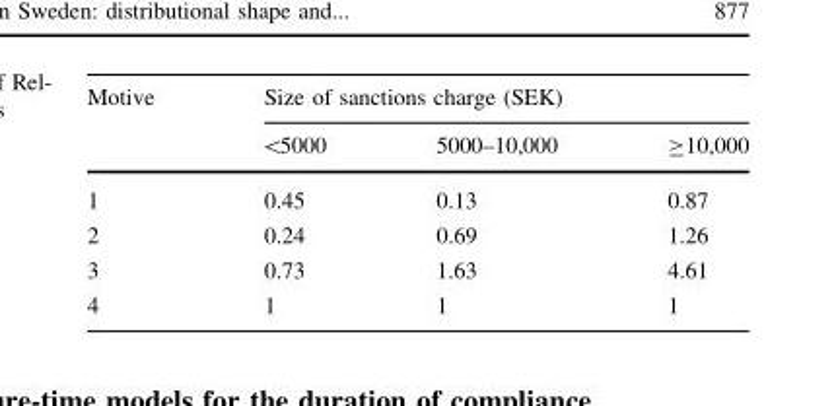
<table><thead><tr><td rowspan="2">Motive</td><td colspan="3">Size of sanctions charge (SEK)</td></tr><tr><td>&lt;5000</td><td>5000–10,000</td><td>≥10,000</td></tr></thead><tbody><tr><td>1</td><td>0.45</td><td>0.13</td><td>0.87</td></tr><tr><td>2</td><td>0.24</td><td>0.69</td><td>1.26</td></tr><tr><td>3</td><td>0.73</td><td>1.63</td><td>4.61</td></tr><tr><td>4</td><td>1</td><td>1</td><td>1</td></tr></tbody></table>